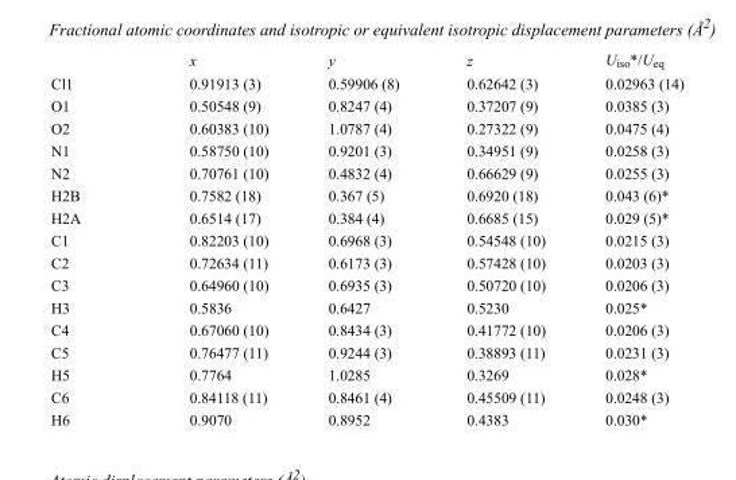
<table><thead><tr><td></td><td>x</td><td>y</td><td>z</td><td>U<sub>iso</sub>*/U<sub>eq</sub></td></tr></thead><tbody><tr><td>Cl1</td><td>0.91913 (3)</td><td>0.59906 (8)</td><td>0.62642 (3)</td><td>0.02963 (14)</td></tr><tr><td>O1</td><td>0.50548 (9)</td><td>0.8247 (4)</td><td>0.37207 (9)</td><td>0.0385 (3)</td></tr><tr><td>O2</td><td>0.60383 (10)</td><td>1.0787 (4)</td><td>0.27322 (9)</td><td>0.0475 (4)</td></tr><tr><td>N1</td><td>0.58750 (10)</td><td>0.9201 (3)</td><td>0.34951 (9)</td><td>0.0258 (3)</td></tr><tr><td>N2</td><td>0.70761 (10)</td><td>0.4832 (4)</td><td>0.66629 (9)</td><td>0.0255 (3)</td></tr><tr><td>H2B</td><td>0.7582 (18)</td><td>0.367 (5)</td><td>0.6920 (18)</td><td>0.043 (6)*</td></tr><tr><td>H2A</td><td>0.6514 (17)</td><td>0.384 (4)</td><td>0.6685 (15)</td><td>0.029 (5)*</td></tr><tr><td>C1</td><td>0.82203 (10)</td><td>0.6968 (3)</td><td>0.54548 (10)</td><td>0.0215 (3)</td></tr><tr><td>C2</td><td>0.72634 (11)</td><td>0.6173 (3)</td><td>0.57428 (10)</td><td>0.0203 (3)</td></tr><tr><td>C3</td><td>0.64960 (10)</td><td>0.6935 (3)</td><td>0.50720 (10)</td><td>0.0206 (3)</td></tr><tr><td>H3</td><td>0.5836</td><td>0.6427</td><td>0.5230</td><td>0.025*</td></tr><tr><td>C4</td><td>0.67060 (10)</td><td>0.8434 (3)</td><td>0.41772 (10)</td><td>0.0206 (3)</td></tr><tr><td>C5</td><td>0.76477 (11)</td><td>0.9244 (3)</td><td>0.38893 (11)</td><td>0.0231 (3)</td></tr><tr><td>H5</td><td>0.7764</td><td>1.0285</td><td>0.3269</td><td>0.028*</td></tr><tr><td>C6</td><td>0.84118 (11)</td><td>0.8461 (4)</td><td>0.45509 (11)</td><td>0.0248 (3)</td></tr><tr><td>H6</td><td>0.9070</td><td>0.8952</td><td>0.4383</td><td>0.030*</td></tr></tbody></table>